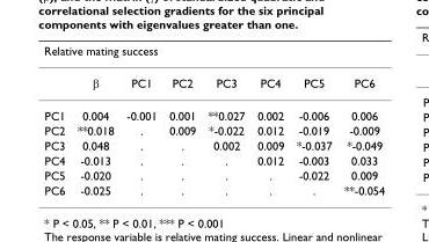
<table><thead><tr><td colspan="8">Relative mating success</td></tr><tr><td></td><td>β</td><td>PC1</td><td>PC2</td><td>PC3</td><td>PC4</td><td>PC5</td><td>PC6</td></tr></thead><tbody><tr><td>PC1</td><td>0.004</td><td>-0.001</td><td>0.001</td><td>**0.027</td><td>0.002</td><td>-0.006</td><td>0.006</td></tr><tr><td>PC2</td><td>**0.018</td><td>.</td><td>0.009</td><td>*-0.022</td><td>0.012</td><td>-0.019</td><td>-0.009</td></tr><tr><td>PC3</td><td>0.048</td><td>.</td><td>.</td><td>0.002</td><td>0.009</td><td>*-0.037</td><td>*-0.049</td></tr><tr><td>PC4</td><td>-0.013</td><td>.</td><td>.</td><td>.</td><td>0.012</td><td>-0.003</td><td>0.033</td></tr><tr><td>PC5</td><td>-0.020</td><td>.</td><td>.</td><td>.</td><td>.</td><td>-0.022</td><td>0.009</td></tr><tr><td>PC6</td><td>-0.025</td><td>.</td><td>.</td><td>.</td><td>.</td><td>.</td><td>**-0.054</td></tr></tbody></table>